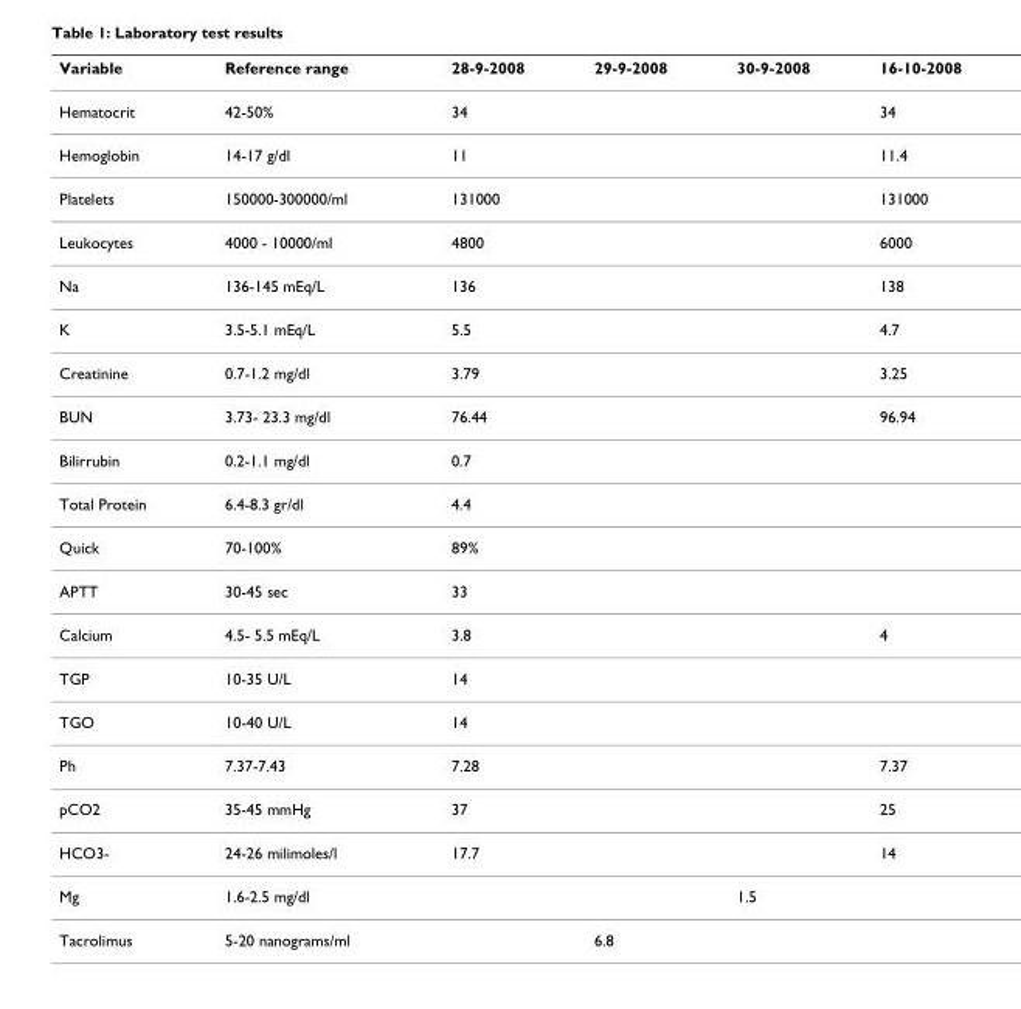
<table><thead><tr><td>Variable</td><td>Reference range</td><td>28-9-2008</td><td>29-9-2008</td><td>30-9-2008</td><td>16-10-2008</td></tr></thead><tbody><tr><td>Hematocrit</td><td>42-50%</td><td>34</td><td></td><td></td><td>34</td></tr><tr><td>Hemoglobin</td><td>14-17 g/dl</td><td>11</td><td></td><td></td><td>11.4</td></tr><tr><td>Platelets</td><td>150000-300000/ml</td><td>131000</td><td></td><td></td><td>131000</td></tr><tr><td>Leukocytes</td><td>4000 - 10000/ml</td><td>4800</td><td></td><td></td><td>6000</td></tr><tr><td>Na</td><td>136-145 mEq/L</td><td>136</td><td></td><td></td><td>138</td></tr><tr><td>K</td><td>3.5-5.1 mEq/L</td><td>5.5</td><td></td><td></td><td>4.7</td></tr><tr><td>Creatinine</td><td>0.7-1.2 mg/dl</td><td>3.79</td><td></td><td></td><td>3.25</td></tr><tr><td>BUN</td><td>3.73- 23.3 mg/dl</td><td>76.44</td><td></td><td></td><td>96.94</td></tr><tr><td>Bilirrubin</td><td>0.2-1.1 mg/dl</td><td>0.7</td><td></td><td></td><td></td></tr><tr><td>Total Protein</td><td>6.4-8.3 gr/dl</td><td>4.4</td><td></td><td></td><td></td></tr><tr><td>Quick</td><td>70-100%</td><td>89%</td><td></td><td></td><td></td></tr><tr><td>APTT</td><td>30-45 sec</td><td>33</td><td></td><td></td><td></td></tr><tr><td>Calcium</td><td>4.5- 5.5 mEq/L</td><td>3.8</td><td></td><td></td><td>4</td></tr><tr><td>TGP</td><td>10-35 U/L</td><td>14</td><td></td><td></td><td></td></tr><tr><td>TGO</td><td>10-40 U/L</td><td>14</td><td></td><td></td><td></td></tr><tr><td>Ph</td><td>7.37-7.43</td><td>7.28</td><td></td><td></td><td>7.37</td></tr><tr><td>pCO2</td><td>35-45 mmHg</td><td>37</td><td></td><td></td><td>25</td></tr><tr><td>HCO3-</td><td>24-26 milimoles/l</td><td>17.7</td><td></td><td></td><td>14</td></tr><tr><td>Mg</td><td>1.6-2.5 mg/dl</td><td></td><td></td><td>1.5</td><td></td></tr><tr><td>Tacrolimus</td><td>5-20 nanograms/ml</td><td></td><td>6.8</td><td></td><td></td></tr></tbody></table>